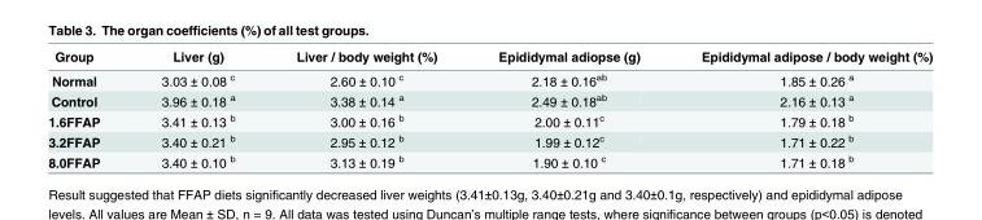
<table><thead><tr><td>Group</td><td>Liver (g)</td><td>Liver / body weight (%)</td><td>Epididymal adiopse (g)</td><td>Epididymal adipose / body weight (%)</td></tr></thead><tbody><tr><td>Normal</td><td>3.03 ± 0.08 <sup>c</sup></td><td>2.60 ± 0.10 <sup>c</sup></td><td>2.18 ± 0.16<sup>ab</sup></td><td>1.85 ± 0.26 <sup>a</sup></td></tr><tr><td>Control</td><td>3.96 ± 0.18 <sup>a</sup></td><td>3.38 ± 0.14 <sup>a</sup></td><td>2.49 ± 0.18<sup>ab</sup></td><td>2.16 ± 0.13 <sup>a</sup></td></tr><tr><td>1.6FFAP</td><td>3.41 ± 0.13 <sup>b</sup></td><td>3.00 ± 0.16 <sup>b</sup></td><td>2.00 ± 0.11<sup>c</sup></td><td>1.79 ± 0.18 <sup>b</sup></td></tr><tr><td>3.2FFAP</td><td>3.40 ± 0.21 <sup>b</sup></td><td>2.95 ± 0.12 <sup>b</sup></td><td>1.99 ± 0.12<sup>c</sup></td><td>1.71 ± 0.22 <sup>b</sup></td></tr><tr><td>8.0FFAP</td><td>3.40 ± 0.10 <sup>b</sup></td><td>3.13 ± 0.19 <sup>b</sup></td><td>1.90 ± 0.10 <sup>c</sup></td><td>1.71 ± 0.18 <sup>b</sup></td></tr></tbody></table>